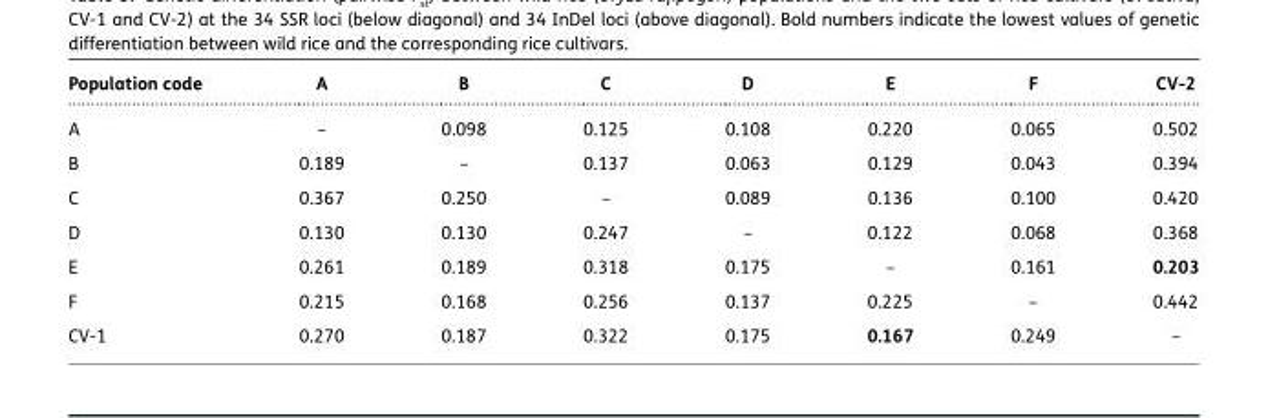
<table><thead><tr><td>Population code</td><td>A</td><td>B</td><td>C</td><td>D</td><td>E</td><td>F</td><td>CV-2</td></tr></thead><tbody><tr><td>A</td><td>–</td><td>0.098</td><td>0.125</td><td>0.108</td><td>0.220</td><td>0.065</td><td>0.502</td></tr><tr><td>B</td><td>0.189</td><td>–</td><td>0.137</td><td>0.063</td><td>0.129</td><td>0.043</td><td>0.394</td></tr><tr><td>C</td><td>0.367</td><td>0.250</td><td>–</td><td>0.089</td><td>0.136</td><td>0.100</td><td>0.420</td></tr><tr><td>D</td><td>0.130</td><td>0.130</td><td>0.247</td><td>–</td><td>0.122</td><td>0.068</td><td>0.368</td></tr><tr><td>E</td><td>0.261</td><td>0.189</td><td>0.318</td><td>0.175</td><td>–</td><td>0.161</td><td>0.203</td></tr><tr><td>F</td><td>0.215</td><td>0.168</td><td>0.256</td><td>0.137</td><td>0.225</td><td>–</td><td>0.442</td></tr><tr><td>CV-1</td><td>0.270</td><td>0.187</td><td>0.322</td><td>0.175</td><td>0.167</td><td>0.249</td><td>–</td></tr></tbody></table>